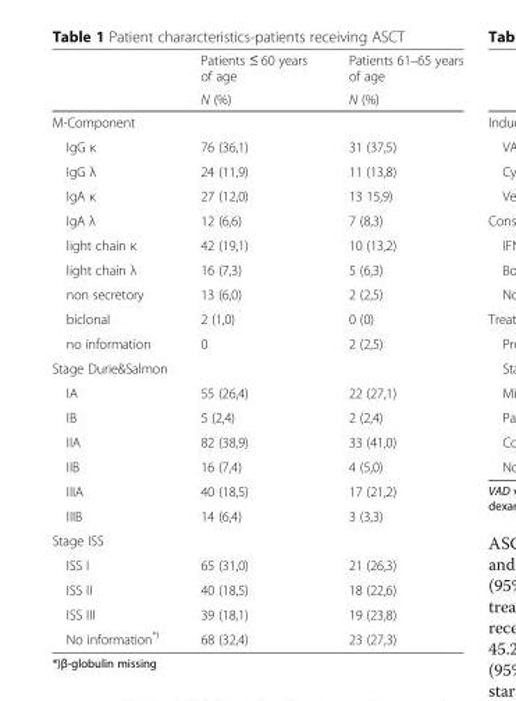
<table><thead><tr><td rowspan="2"></td><td rowspan="2">Patients ≤ 60 years of age N (%)</td><td rowspan="2">Patients 61–65 years of age N (%)</td></tr><tr></tr></thead><tbody><tr><td colspan="3">M-Component</td></tr><tr><td>IgG κ</td><td>76 (36,1)</td><td>31 (37,5)</td></tr><tr><td>IgG λ</td><td>24 (11,9)</td><td>11 (13,8)</td></tr><tr><td>IgA κ</td><td>27 (12,0)</td><td>13 15,9)</td></tr><tr><td>IgA λ</td><td>12 (6,6)</td><td>7 (8,3)</td></tr><tr><td>light chain κ</td><td>42 (19,1)</td><td>10 (13,2)</td></tr><tr><td>light chain λ</td><td>16 (7,3)</td><td>5 (6,3)</td></tr><tr><td>non secretory</td><td>13 (6,0)</td><td>2 (2,5)</td></tr><tr><td>biclonal</td><td>2 (1,0)</td><td>0 (0)</td></tr><tr><td>no information</td><td>0</td><td>2 (2,5)</td></tr><tr><td colspan="3">Stage Durie&amp;Salmon</td></tr><tr><td>IA</td><td>55 (26,4)</td><td>22 (27,1)</td></tr><tr><td>IB</td><td>5 (2,4)</td><td>2 (2,4)</td></tr><tr><td>IIA</td><td>82 (38,9)</td><td>33 (41,0)</td></tr><tr><td>IIB</td><td>16 (7,4)</td><td>4 (5,0)</td></tr><tr><td>IIIA</td><td>40 (18,5)</td><td>17 (21,2)</td></tr><tr><td>IIIB</td><td>14 (6,4)</td><td>3 (3,3)</td></tr><tr><td colspan="3">Stage ISS</td></tr><tr><td>ISS I</td><td>65 (31,0)</td><td>21 (26,3)</td></tr><tr><td>ISS II</td><td>40 (18,5)</td><td>18 (22,6)</td></tr><tr><td>ISS III</td><td>39 (18,1)</td><td>19 (23,8)</td></tr><tr><td>No information<sup>*)</sup></td><td>68 (32,4)</td><td>23 (27,3)</td></tr></tbody></table>